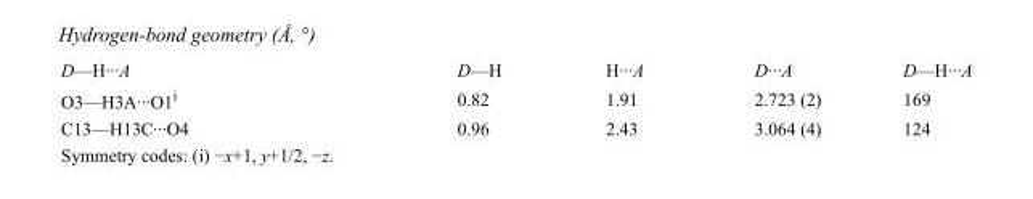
<table><tbody><tr><td>D—H···A</td><td>D—H</td><td>H···A</td><td>D···A</td><td>D—H···A</td></tr><tr><td>O3—H3A···O1<sup>i</sup></td><td>0.82</td><td>1.91</td><td>2.723 (2)</td><td>169</td></tr><tr><td>C13—H13C···O4</td><td>0.96</td><td>2.43</td><td>3.064 (4)</td><td>124</td></tr></tbody></table>